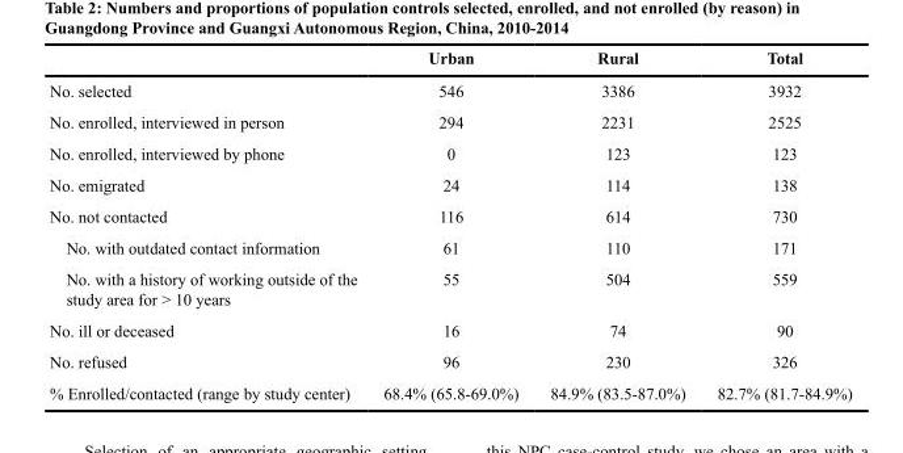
<table><thead><tr><td></td><td>Urban</td><td>Rural</td><td>Total</td></tr></thead><tbody><tr><td>No. selected</td><td>546</td><td>3386</td><td>3932</td></tr><tr><td>No. enrolled, interviewed in person</td><td>294</td><td>2231</td><td>2525</td></tr><tr><td>No. enrolled, interviewed by phone</td><td>0</td><td>123</td><td>123</td></tr><tr><td>No. emigrated</td><td>24</td><td>114</td><td>138</td></tr><tr><td>No. not contacted</td><td>116</td><td>614</td><td>730</td></tr><tr><td>No. with outdated contact information</td><td>61</td><td>110</td><td>171</td></tr><tr><td>No. with a history of working outside of the study area for &gt; 10 years</td><td>55</td><td>504</td><td>559</td></tr><tr><td>No. ill or deceased</td><td>16</td><td>74</td><td>90</td></tr><tr><td>No. refused</td><td>96</td><td>230</td><td>326</td></tr><tr><td>% Enrolled/contacted (range by study center)</td><td>68.4% (65.8-69.0%)</td><td>84.9% (83.5-87.0%)</td><td>82.7% (81.7-84.9%)</td></tr></tbody></table>